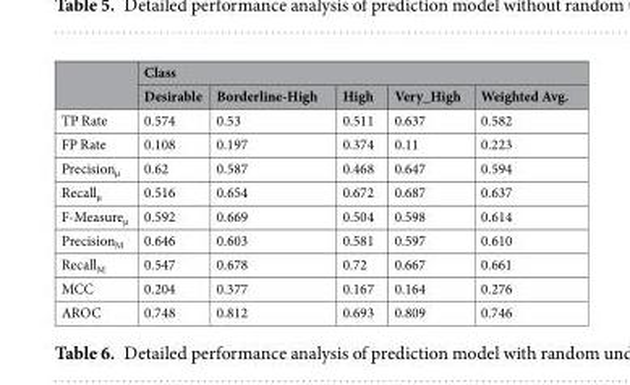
<table><thead><tr><td rowspan="2"></td><td colspan="5">Class</td></tr><tr><td>Desirable</td><td>Borderline-High</td><td>High</td><td>Very_High</td><td>Weighted Avg.</td></tr></thead><tbody><tr><td>TP Rate</td><td>0.574</td><td>0.53</td><td>0.511</td><td>0.637</td><td>0.582</td></tr><tr><td>FP Rate</td><td>0.108</td><td>0.197</td><td>0.374</td><td>0.11</td><td>0.223</td></tr><tr><td>Precision<sub>µ</sub></td><td>0.62</td><td>0.587</td><td>0.468</td><td>0.647</td><td>0.594</td></tr><tr><td>Recall<sub>µ</sub></td><td>0.516</td><td>0.654</td><td>0.672</td><td>0.687</td><td>0.637</td></tr><tr><td>F-Measure<sub>µ</sub></td><td>0.592</td><td>0.669</td><td>0.504</td><td>0.598</td><td>0.614</td></tr><tr><td>Precision<sub>M</sub></td><td>0.646</td><td>0.603</td><td>0.581</td><td>0.597</td><td>0.610</td></tr><tr><td>Recall<sub>M</sub></td><td>0.547</td><td>0.678</td><td>0.72</td><td>0.667</td><td>0.661</td></tr><tr><td>MCC</td><td>0.204</td><td>0.377</td><td>0.167</td><td>0.164</td><td>0.276</td></tr><tr><td>AROC</td><td>0.748</td><td>0.812</td><td>0.693</td><td>0.809</td><td>0.746</td></tr></tbody></table>